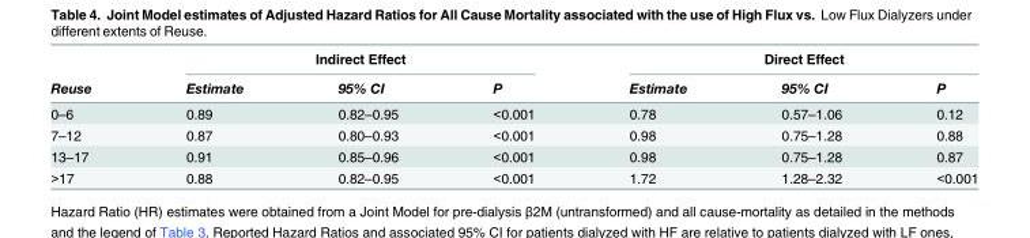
<table><thead><tr><td rowspan="2">Reuse</td><td colspan="3">Indirect Effect</td><td colspan="3">Direct Effect</td></tr><tr><td>Estimate</td><td>95% CI</td><td>P</td><td>Estimate</td><td>95% CI</td><td>P</td></tr></thead><tbody><tr><td>0–6</td><td>0.89</td><td>0.82–0.95</td><td>&lt;0.001</td><td>0.78</td><td>0.57–1.06</td><td>0.12</td></tr><tr><td>7–12</td><td>0.87</td><td>0.80–0.93</td><td>&lt;0.001</td><td>0.98</td><td>0.75–1.28</td><td>0.88</td></tr><tr><td>13–17</td><td>0.91</td><td>0.85–0.96</td><td>&lt;0.001</td><td>0.98</td><td>0.75–1.28</td><td>0.87</td></tr><tr><td>&gt;17</td><td>0.88</td><td>0.82–0.95</td><td>&lt;0.001</td><td>1.72</td><td>1.28–2.32</td><td>&lt;0.001</td></tr></tbody></table>